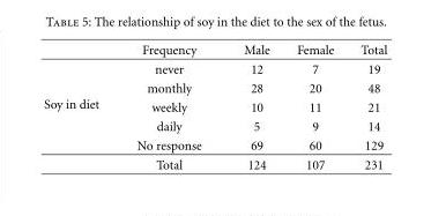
<table><thead><tr><td></td><td>Frequency</td><td>Male</td><td>Female</td><td>Total</td></tr></thead><tbody><tr><td rowspan="6">Soy in diet</td><td>never</td><td>12</td><td>7</td><td>19</td></tr><tr><td>monthly</td><td>28</td><td>20</td><td>48</td></tr><tr><td>weekly</td><td>10</td><td>11</td><td>21</td></tr><tr><td>daily</td><td>5</td><td>9</td><td>14</td></tr><tr><td>No response</td><td>69</td><td>60</td><td>129</td></tr><tr><td>Total</td><td>124</td><td>107</td><td>231</td></tr></tbody></table>